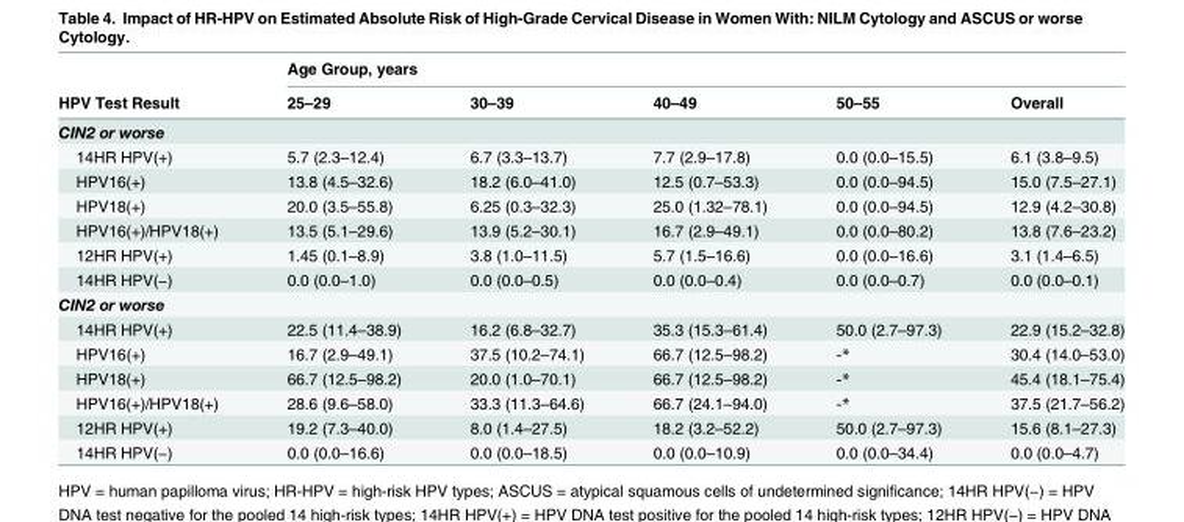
<table><thead><tr><td rowspan="2">HPV Test Result</td><td colspan="5">Age Group, years</td></tr><tr><td>25–29</td><td>30–39</td><td>40–49</td><td>50–55</td><td>Overall</td></tr></thead><tbody><tr><td colspan="6">CIN2 or worse</td></tr><tr><td>14HR HPV(+)</td><td>5.7 (2.3–12.4)</td><td>6.7 (3.3–13.7)</td><td>7.7 (2.9–17.8)</td><td>0.0 (0.0–15.5)</td><td>6.1 (3.8–9.5)</td></tr><tr><td>HPV16(+)</td><td>13.8 (4.5–32.6)</td><td>18.2 (6.0–41.0)</td><td>12.5 (0.7–53.3)</td><td>0.0 (0.0–94.5)</td><td>15.0 (7.5–27.1)</td></tr><tr><td>HPV18(+)</td><td>20.0 (3.5–55.8)</td><td>6.25 (0.3–32.3)</td><td>25.0 (1.32–78.1)</td><td>0.0 (0.0–94.5)</td><td>12.9 (4.2–30.8)</td></tr><tr><td>HPV16(+)/HPV18(+)</td><td>13.5 (5.1–29.6)</td><td>13.9 (5.2–30.1)</td><td>16.7 (2.9–49.1)</td><td>0.0 (0.0–80.2)</td><td>13.8 (7.6–23.2)</td></tr><tr><td>12HR HPV(+)</td><td>1.45 (0.1–8.9)</td><td>3.8 (1.0–11.5)</td><td>5.7 (1.5–16.6)</td><td>0.0 (0.0–16.6)</td><td>3.1 (1.4–6.5)</td></tr><tr><td>14HR HPV(−)</td><td>0.0 (0.0–1.0)</td><td>0.0 (0.0–0.5)</td><td>0.0 (0.0–0.4)</td><td>0.0 (0.0–0.7)</td><td>0.0 (0.0–0.1)</td></tr><tr><td colspan="6">CIN2 or worse</td></tr><tr><td>14HR HPV(+)</td><td>22.5 (11.4–38.9)</td><td>16.2 (6.8–32.7)</td><td>35.3 (15.3–61.4)</td><td>50.0 (2.7–97.3)</td><td>22.9 (15.2–32.8)</td></tr><tr><td>HPV16(+)</td><td>16.7 (2.9–49.1)</td><td>37.5 (10.2–74.1)</td><td>66.7 (12.5–98.2)</td><td>-*</td><td>30.4 (14.0–53.0)</td></tr><tr><td>HPV18(+)</td><td>66.7 (12.5–98.2)</td><td>20.0 (1.0–70.1)</td><td>66.7 (12.5–98.2)</td><td>-*</td><td>45.4 (18.1–75.4)</td></tr><tr><td>HPV16(+)/HPV18(+)</td><td>28.6 (9.6–58.0)</td><td>33.3 (11.3–64.6)</td><td>66.7 (24.1–94.0)</td><td>-*</td><td>37.5 (21.7–56.2)</td></tr><tr><td>12HR HPV(+)</td><td>19.2 (7.3–40.0)</td><td>8.0 (1.4–27.5)</td><td>18.2 (3.2–52.2)</td><td>50.0 (2.7–97.3)</td><td>15.6 (8.1–27.3)</td></tr><tr><td>14HR HPV(−)</td><td>0.0 (0.0–16.6)</td><td>0.0 (0.0–18.5)</td><td>0.0 (0.0–10.9)</td><td>0.0 (0.0–34.4)</td><td>0.0 (0.0–4.7)</td></tr></tbody></table>